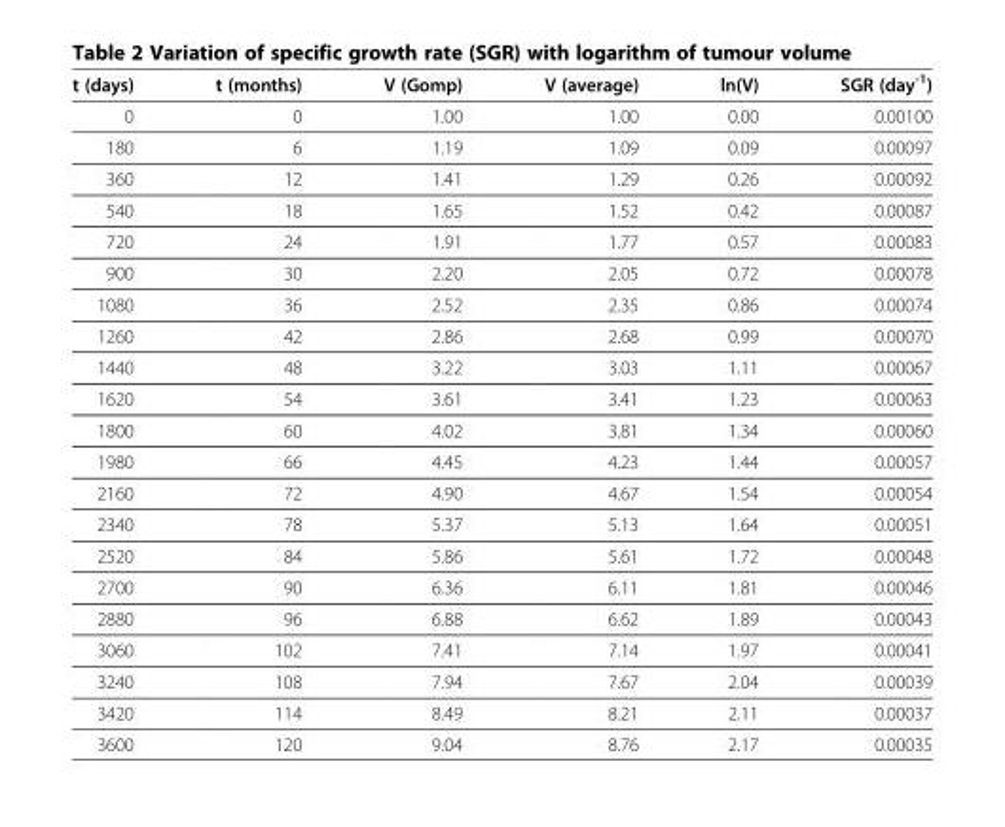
<table><tbody><tr><td>t (days)</td><td>t (months)</td><td>V (Gomp)</td><td>V (average)</td><td>ln(V)</td><td>SGR (day<sup>-1</sup>)</td></tr><tr><td>0</td><td>0</td><td>1.00</td><td>1.00</td><td>0.00</td><td>0.00100</td></tr><tr><td>180</td><td>6</td><td>1.19</td><td>1.09</td><td>0.09</td><td>0.00097</td></tr><tr><td>360</td><td>12</td><td>1.41</td><td>1.29</td><td>0.26</td><td>0.00092</td></tr><tr><td>540</td><td>18</td><td>1.65</td><td>1.52</td><td>0.42</td><td>0.00087</td></tr><tr><td>720</td><td>24</td><td>1.91</td><td>1.77</td><td>0.57</td><td>0.00083</td></tr><tr><td>900</td><td>30</td><td>2.20</td><td>2.05</td><td>0.72</td><td>0.00078</td></tr><tr><td>1080</td><td>36</td><td>2.52</td><td>2.35</td><td>0.86</td><td>0.00074</td></tr><tr><td>1260</td><td>42</td><td>2.86</td><td>2.68</td><td>0.99</td><td>0.00070</td></tr><tr><td>1440</td><td>48</td><td>3.22</td><td>3.03</td><td>1.11</td><td>0.00067</td></tr><tr><td>1620</td><td>54</td><td>3.61</td><td>3.41</td><td>1.23</td><td>0.00063</td></tr><tr><td>1800</td><td>60</td><td>4.02</td><td>3.81</td><td>1.34</td><td>0.00060</td></tr><tr><td>1980</td><td>66</td><td>4.45</td><td>4.23</td><td>1.44</td><td>0.00057</td></tr><tr><td>2160</td><td>72</td><td>4.90</td><td>4.67</td><td>1.54</td><td>0.00054</td></tr><tr><td>2340</td><td>78</td><td>5.37</td><td>5.13</td><td>1.64</td><td>0.00051</td></tr><tr><td>2520</td><td>84</td><td>5.86</td><td>5.61</td><td>1.72</td><td>0.00048</td></tr><tr><td>2700</td><td>90</td><td>6.36</td><td>6.11</td><td>1.81</td><td>0.00046</td></tr><tr><td>2880</td><td>96</td><td>6.88</td><td>6.62</td><td>1.89</td><td>0.00043</td></tr><tr><td>3060</td><td>102</td><td>7.41</td><td>7.14</td><td>1.97</td><td>0.00041</td></tr><tr><td>3240</td><td>108</td><td>7.94</td><td>7.67</td><td>2.04</td><td>0.00039</td></tr><tr><td>3420</td><td>114</td><td>8.49</td><td>8.21</td><td>2.11</td><td>0.00037</td></tr><tr><td>3600</td><td>120</td><td>9.04</td><td>8.76</td><td>2.17</td><td>0.00035</td></tr></tbody></table>